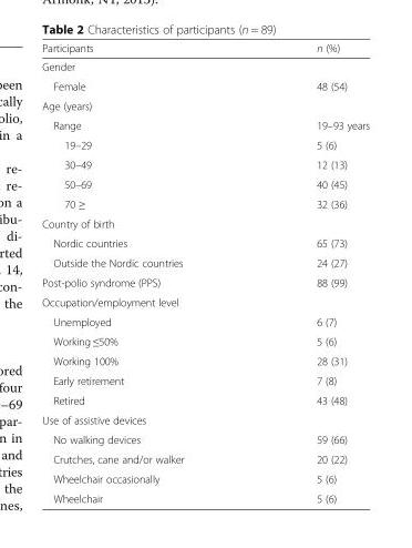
<table><thead><tr><td>Participants</td><td>n (%)</td></tr></thead><tbody><tr><td colspan="2">Gender</td></tr><tr><td>Female</td><td>48 (54)</td></tr><tr><td colspan="2">Age (years)</td></tr><tr><td>Range</td><td>19–93 years</td></tr><tr><td>19–29</td><td>5 (6)</td></tr><tr><td>30–49</td><td>12 (13)</td></tr><tr><td>50–69</td><td>40 (45)</td></tr><tr><td>70 ≥</td><td>32 (36)</td></tr><tr><td colspan="2">Country of birth</td></tr><tr><td>Nordic countries</td><td>65 (73)</td></tr><tr><td>Outside the Nordic countries</td><td>24 (27)</td></tr><tr><td>Post-polio syndrome (PPS)</td><td>88 (99)</td></tr><tr><td colspan="2">Occupation/employment level</td></tr><tr><td>Unemployed</td><td>6 (7)</td></tr><tr><td>Working ≤50%</td><td>5 (6)</td></tr><tr><td>Working 100%</td><td>28 (31)</td></tr><tr><td>Early retirement</td><td>7 (8)</td></tr><tr><td>Retired</td><td>43 (48)</td></tr><tr><td colspan="2">Use of assistive devices</td></tr><tr><td>No walking devices</td><td>59 (66)</td></tr><tr><td>Crutches, cane and/or walker</td><td>20 (22)</td></tr><tr><td>Wheelchair occasionally</td><td>5 (6)</td></tr><tr><td>Wheelchair</td><td>5 (6)</td></tr></tbody></table>